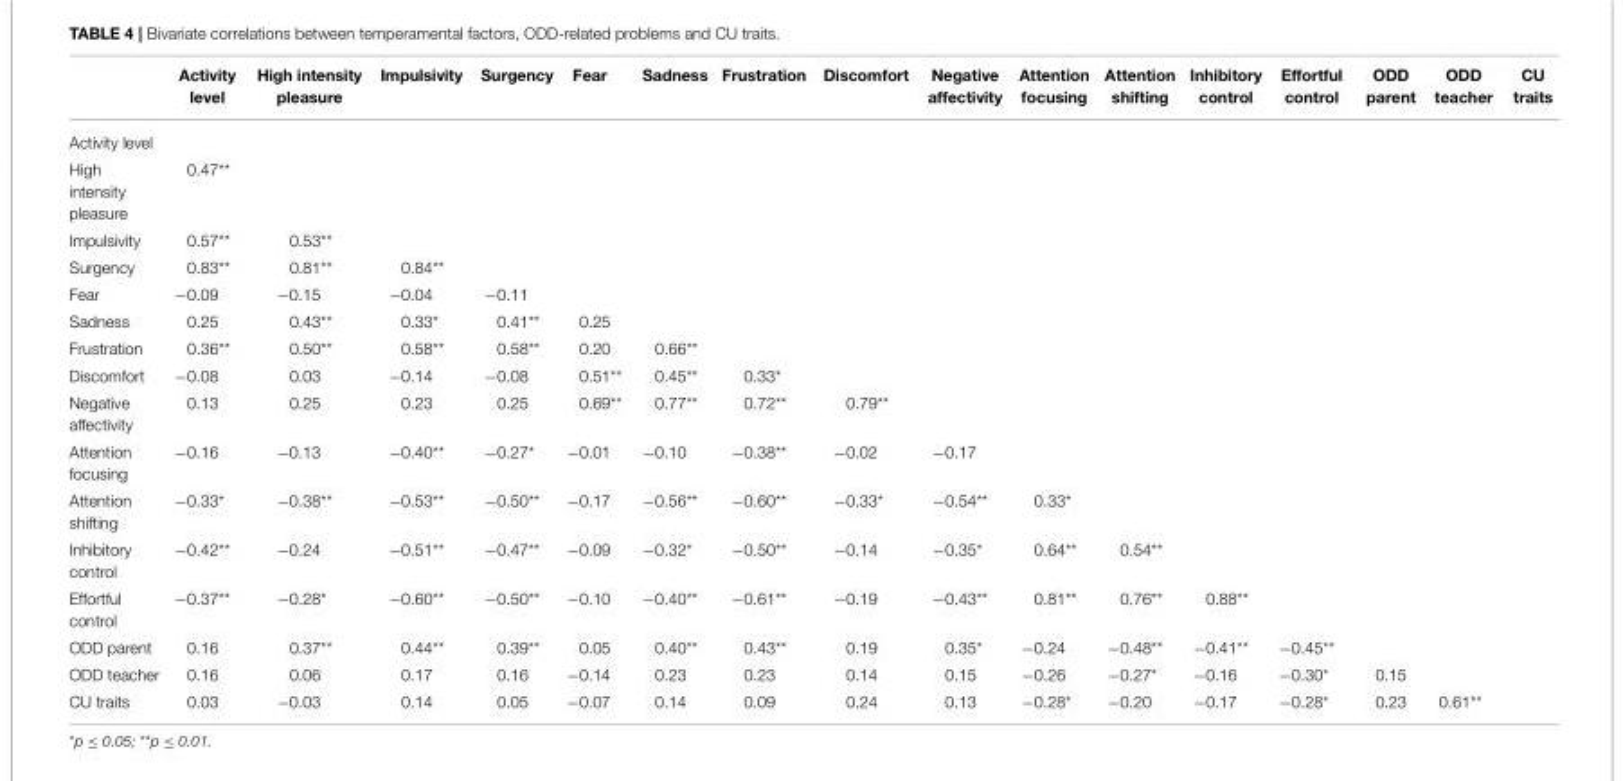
<table><thead><tr><td></td><td>Activity level</td><td>High intensity pleasure</td><td>Impulsivity</td><td>Surgency</td><td>Fear</td><td>Sadness</td><td>Frustration</td><td>Discomfort</td><td>Negative affectivity</td><td>Attention focusing</td><td>Attention shifting</td><td>Inhibitory control</td><td>Effortful control</td><td>ODD parent</td><td>ODD teacher</td><td>CU traits</td></tr></thead><tbody><tr><td colspan="17">Activity level</td></tr><tr><td>High intensity pleasure</td><td>0.47**</td><td></td><td></td><td></td><td></td><td></td><td></td><td></td><td></td><td></td><td></td><td></td><td></td><td></td><td></td><td></td></tr><tr><td>Impulsivity</td><td>0.57**</td><td>0.53**</td><td></td><td></td><td></td><td></td><td></td><td></td><td></td><td></td><td></td><td></td><td></td><td></td><td></td><td></td></tr><tr><td>Surgency</td><td>0.83**</td><td>0.81**</td><td>0.84**</td><td></td><td></td><td></td><td></td><td></td><td></td><td></td><td></td><td></td><td></td><td></td><td></td><td></td></tr><tr><td>Fear</td><td>−0.09</td><td>−0.15</td><td>−0.04</td><td>−0.11</td><td></td><td></td><td></td><td></td><td></td><td></td><td></td><td></td><td></td><td></td><td></td><td></td></tr><tr><td>Sadness</td><td>0.25</td><td>0.43**</td><td>0.33*</td><td>0.41**</td><td>0.25</td><td></td><td></td><td></td><td></td><td></td><td></td><td></td><td></td><td></td><td></td><td></td></tr><tr><td>Frustration</td><td>0.36**</td><td>0.50**</td><td>0.58**</td><td>0.58**</td><td>0.20</td><td>0.66**</td><td></td><td></td><td></td><td></td><td></td><td></td><td></td><td></td><td></td><td></td></tr><tr><td>Discomfort</td><td>−0.08</td><td>0.03</td><td>−0.14</td><td>−0.08</td><td>0.51**</td><td>0.45**</td><td>0.33*</td><td></td><td></td><td></td><td></td><td></td><td></td><td></td><td></td><td></td></tr><tr><td>Negative affectivity</td><td>0.13</td><td>0.25</td><td>0.23</td><td>0.25</td><td>0.69**</td><td>0.77**</td><td>0.72**</td><td>0.79**</td><td></td><td></td><td></td><td></td><td></td><td></td><td></td><td></td></tr><tr><td>Attention focusing</td><td>−0.16</td><td>−0.13</td><td>−0.40**</td><td>−0.27*</td><td>−0.01</td><td>−0.10</td><td>−0.38**</td><td>−0.02</td><td>−0.17</td><td></td><td></td><td></td><td></td><td></td><td></td><td></td></tr><tr><td>Attention shifting</td><td>−0.33*</td><td>−0.38**</td><td>−0.53**</td><td>−0.50**</td><td>−0.17</td><td>−0.56**</td><td>−0.60**</td><td>−0.33*</td><td>−0.54**</td><td>0.33*</td><td></td><td></td><td></td><td></td><td></td><td></td></tr><tr><td>Inhibitory control</td><td>−0.42**</td><td>−0.24</td><td>−0.51**</td><td>−0.47**</td><td>−0.09</td><td>−0.32*</td><td>−0.50**</td><td>−0.14</td><td>−0.35*</td><td>0.64**</td><td>0.54**</td><td></td><td></td><td></td><td></td><td></td></tr><tr><td>Effortful control</td><td>−0.37**</td><td>−0.28*</td><td>−0.60**</td><td>−0.50**</td><td>−0.10</td><td>−0.40**</td><td>−0.61**</td><td>−0.19</td><td>−0.43**</td><td>0.81**</td><td>0.76**</td><td>0.88**</td><td></td><td></td><td></td><td></td></tr><tr><td>ODD parent</td><td>0.16</td><td>0.37**</td><td>0.44**</td><td>0.39**</td><td>0.05</td><td>0.40**</td><td>0.43**</td><td>0.19</td><td>0.35*</td><td>−0.24</td><td>−0.48**</td><td>−0.41**</td><td>−0.45**</td><td></td><td></td><td></td></tr><tr><td>ODD teacher</td><td>0.16</td><td>0.06</td><td>0.17</td><td>0.16</td><td>−0.14</td><td>0.23</td><td>0.23</td><td>0.14</td><td>0.15</td><td>−0.26</td><td>−0.27*</td><td>−0.16</td><td>−0.30*</td><td>0.15</td><td></td><td></td></tr><tr><td>CU traits</td><td>0.03</td><td>−0.03</td><td>0.14</td><td>0.05</td><td>−0.07</td><td>0.14</td><td>0.09</td><td>0.24</td><td>0.13</td><td>−0.28*</td><td>−0.20</td><td>−0.17</td><td>−0.28*</td><td>0.23</td><td>0.61**</td><td></td></tr></tbody></table>